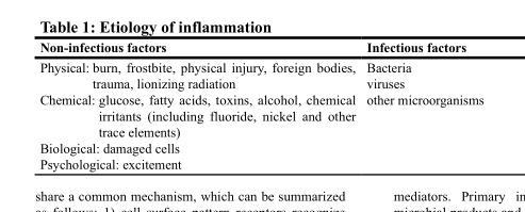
<table><thead><tr><td>Non-infectious factors</td><td>Infectious factors</td></tr></thead><tbody><tr><td>Physical: burn, frostbite, physical injury, foreign bodies, trauma, lionizing radiation Chemical: glucose, fatty acids, toxins, alcohol, chemical irritants (including fluoride, nickel and other trace elements) Biological: damaged cells Psychological: excitement</td><td>Bacteria viruses other microorganisms</td></tr></tbody></table>